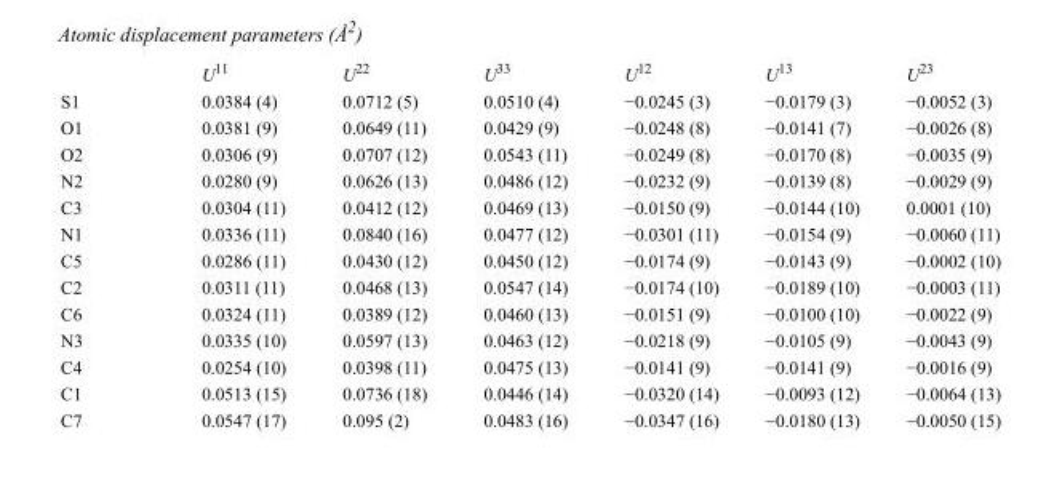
<table><thead><tr><td></td><td>U<sup>11</sup></td><td>U<sup>22</sup></td><td>U<sup>33</sup></td><td>U<sup>12</sup></td><td>U<sup>13</sup></td><td>U<sup>23</sup></td></tr></thead><tbody><tr><td>S1</td><td>0.0384 (4)</td><td>0.0712 (5)</td><td>0.0510 (4)</td><td>−0.0245 (3)</td><td>−0.0179 (3)</td><td>−0.0052 (3)</td></tr><tr><td>O1</td><td>0.0381 (9)</td><td>0.0649 (11)</td><td>0.0429 (9)</td><td>−0.0248 (8)</td><td>−0.0141 (7)</td><td>−0.0026 (8)</td></tr><tr><td>O2</td><td>0.0306 (9)</td><td>0.0707 (12)</td><td>0.0543 (11)</td><td>−0.0249 (8)</td><td>−0.0170 (8)</td><td>−0.0035 (9)</td></tr><tr><td>N2</td><td>0.0280 (9)</td><td>0.0626 (13)</td><td>0.0486 (12)</td><td>−0.0232 (9)</td><td>−0.0139 (8)</td><td>−0.0029 (9)</td></tr><tr><td>C3</td><td>0.0304 (11)</td><td>0.0412 (12)</td><td>0.0469 (13)</td><td>−0.0150 (9)</td><td>−0.0144 (10)</td><td>0.0001 (10)</td></tr><tr><td>N1</td><td>0.0336 (11)</td><td>0.0840 (16)</td><td>0.0477 (12)</td><td>−0.0301 (11)</td><td>−0.0154 (9)</td><td>−0.0060 (11)</td></tr><tr><td>C5</td><td>0.0286 (11)</td><td>0.0430 (12)</td><td>0.0450 (12)</td><td>−0.0174 (9)</td><td>−0.0143 (9)</td><td>−0.0002 (10)</td></tr><tr><td>C2</td><td>0.0311 (11)</td><td>0.0468 (13)</td><td>0.0547 (14)</td><td>−0.0174 (10)</td><td>−0.0189 (10)</td><td>−0.0003 (11)</td></tr><tr><td>C6</td><td>0.0324 (11)</td><td>0.0389 (12)</td><td>0.0460 (13)</td><td>−0.0151 (9)</td><td>−0.0100 (10)</td><td>−0.0022 (9)</td></tr><tr><td>N3</td><td>0.0335 (10)</td><td>0.0597 (13)</td><td>0.0463 (12)</td><td>−0.0218 (9)</td><td>−0.0105 (9)</td><td>−0.0043 (9)</td></tr><tr><td>C4</td><td>0.0254 (10)</td><td>0.0398 (11)</td><td>0.0475 (13)</td><td>−0.0141 (9)</td><td>−0.0141 (9)</td><td>−0.0016 (9)</td></tr><tr><td>C1</td><td>0.0513 (15)</td><td>0.0736 (18)</td><td>0.0446 (14)</td><td>−0.0320 (14)</td><td>−0.0093 (12)</td><td>−0.0064 (13)</td></tr><tr><td>C7</td><td>0.0547 (17)</td><td>0.095 (2)</td><td>0.0483 (16)</td><td>−0.0347 (16)</td><td>−0.0180 (13)</td><td>−0.0050 (15)</td></tr></tbody></table>